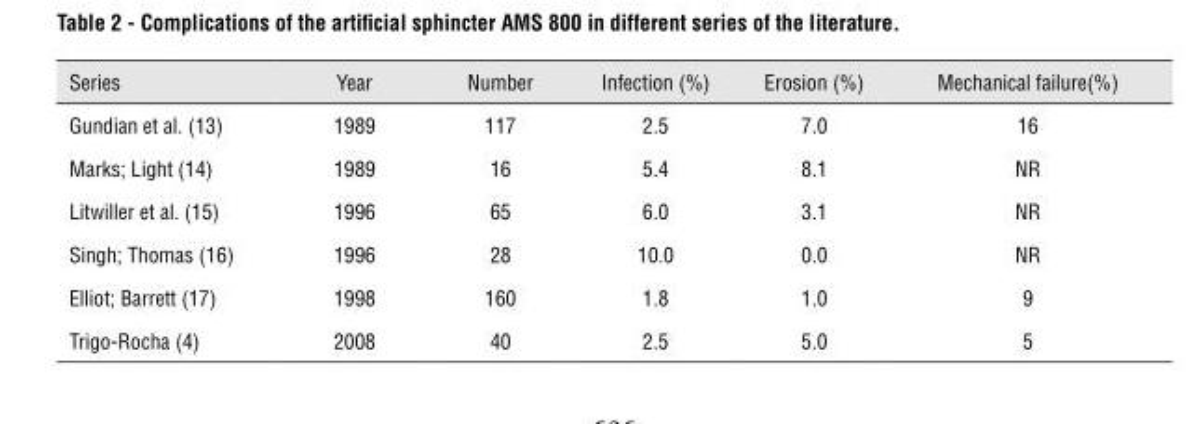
<table><thead><tr><td>Series</td><td>Year</td><td>Number</td><td>Infection (%)</td><td>Erosion (%)</td><td>Mechanical failure(%)</td></tr></thead><tbody><tr><td>Gundian et al. (13)</td><td>1989</td><td>117</td><td>2.5</td><td>7.0</td><td>16</td></tr><tr><td>Marks; Light (14)</td><td>1989</td><td>16</td><td>5.4</td><td>8.1</td><td>NR</td></tr><tr><td>Litwiller et al. (15)</td><td>1996</td><td>65</td><td>6.0</td><td>3.1</td><td>NR</td></tr><tr><td>Singh; Thomas (16)</td><td>1996</td><td>28</td><td>10.0</td><td>0.0</td><td>NR</td></tr><tr><td>Elliot; Barrett (17)</td><td>1998</td><td>160</td><td>1.8</td><td>1.0</td><td>9</td></tr><tr><td>Trigo-Rocha (4)</td><td>2008</td><td>40</td><td>2.5</td><td>5.0</td><td>5</td></tr></tbody></table>